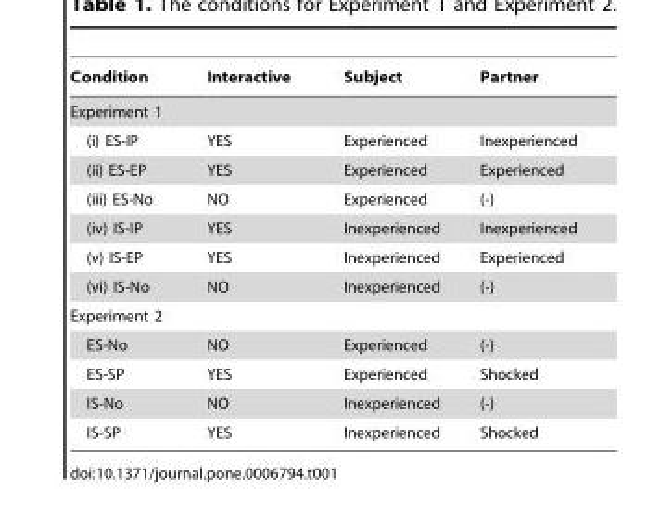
<table><thead><tr><td>Condition</td><td>Interactive</td><td>Subject</td><td>Partner</td></tr></thead><tbody><tr><td colspan="4">Experiment 1</td></tr><tr><td>(i) ES-IP</td><td>YES</td><td>Experienced</td><td>Inexperienced</td></tr><tr><td>(ii) ES-EP</td><td>YES</td><td>Experienced</td><td>Experienced</td></tr><tr><td>(iii) ES-No</td><td>NO</td><td>Experienced</td><td>(-)</td></tr><tr><td>(iv) IS-IP</td><td>YES</td><td>Inexperienced</td><td>Inexperienced</td></tr><tr><td>(v) IS-EP</td><td>YES</td><td>Inexperienced</td><td>Experienced</td></tr><tr><td>(vi) IS-No</td><td>NO</td><td>Inexperienced</td><td>(-)</td></tr><tr><td colspan="4">Experiment 2</td></tr><tr><td>ES-No</td><td>NO</td><td>Experienced</td><td>(-)</td></tr><tr><td>ES-SP</td><td>YES</td><td>Experienced</td><td>Shocked</td></tr><tr><td>IS-No</td><td>NO</td><td>Inexperienced</td><td>(-)</td></tr><tr><td>IS-SP</td><td>YES</td><td>Inexperienced</td><td>Shocked</td></tr></tbody></table>